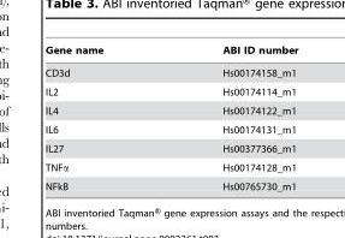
<table><thead><tr><td>Gene name</td><td>ABI ID number</td></tr></thead><tbody><tr><td>CD3d</td><td>Hs00174158_m1</td></tr><tr><td>IL2</td><td>Hs00174114_m1</td></tr><tr><td>IL4</td><td>Hs00174122_m1</td></tr><tr><td>IL6</td><td>Hs00174131_m1</td></tr><tr><td>IL27</td><td>Hs00377366_m1</td></tr><tr><td>TNFα</td><td>Hs00174128_m1</td></tr><tr><td>NFkB</td><td>Hs00765730_m1</td></tr></tbody></table>